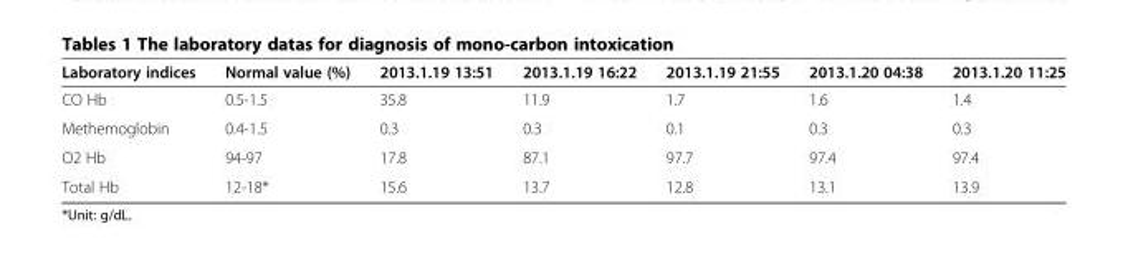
<table><thead><tr><td>Laboratory indices</td><td>Normal value (%)</td><td>2013.1.19 13:51</td><td>2013.1.19 16:22</td><td>2013.1.19 21:55</td><td>2013.1.20 04:38</td><td>2013.1.20 11:25</td></tr></thead><tbody><tr><td>CO Hb</td><td>0.5-1.5</td><td>35.8</td><td>11.9</td><td>1.7</td><td>1.6</td><td>1.4</td></tr><tr><td>Methemoglobin</td><td>0.4-1.5</td><td>0.3</td><td>0.3</td><td>0.1</td><td>0.3</td><td>0.3</td></tr><tr><td>O2 Hb</td><td>94-97</td><td>17.8</td><td>87.1</td><td>97.7</td><td>97.4</td><td>97.4</td></tr><tr><td>Total Hb</td><td>12-18*</td><td>15.6</td><td>13.7</td><td>12.8</td><td>13.1</td><td>13.9</td></tr></tbody></table>